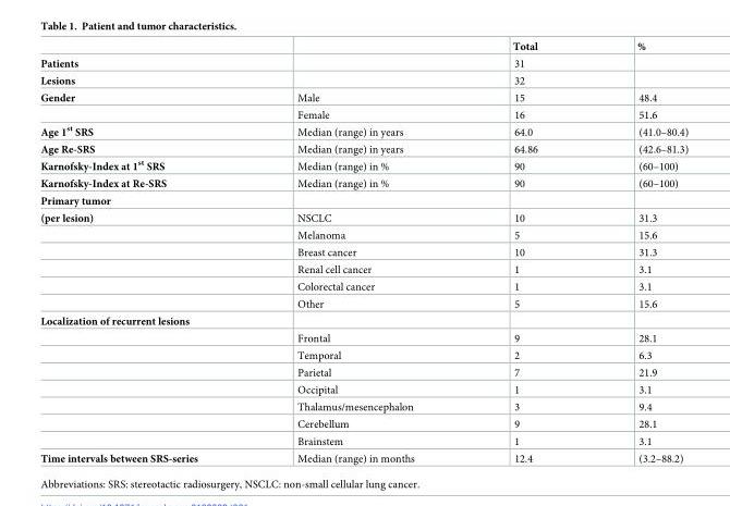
<table><thead><tr><td></td><td></td><td>Total</td><td>%</td></tr></thead><tbody><tr><td>Patients</td><td></td><td>31</td><td></td></tr><tr><td>Lesions</td><td></td><td>32</td><td></td></tr><tr><td rowspan="2">Gender</td><td>Male</td><td>15</td><td>48.4</td></tr><tr><td>Female</td><td>16</td><td>51.6</td></tr><tr><td>Age 1<sup>st</sup> SRS</td><td>Median (range) in years</td><td>64.0</td><td>(41.0–80.4)</td></tr><tr><td>Age Re-SRS</td><td>Median (range) in years</td><td>64.86</td><td>(42.6–81.3)</td></tr><tr><td>Karnofsky-Index at 1<sup>st</sup> SRS</td><td>Median (range) in %</td><td>90</td><td>(60–100)</td></tr><tr><td>Karnofsky-Index at Re-SRS</td><td>Median (range) in %</td><td>90</td><td>(60–100)</td></tr><tr><td colspan="4">Primary tumor</td></tr><tr><td rowspan="6">(per lesion)</td><td>NSCLC</td><td>10</td><td>31.3</td></tr><tr><td>Melanoma</td><td>5</td><td>15.6</td></tr><tr><td>Breast cancer</td><td>10</td><td>31.3</td></tr><tr><td>Renal cell cancer</td><td>1</td><td>3.1</td></tr><tr><td>Colorectal cancer</td><td>1</td><td>3.1</td></tr><tr><td>Other</td><td>5</td><td>15.6</td></tr><tr><td colspan="4">Localization of recurrent lesions</td></tr><tr><td></td><td>Frontal</td><td>9</td><td>28.1</td></tr><tr><td></td><td>Temporal</td><td>2</td><td>6.3</td></tr><tr><td></td><td>Parietal</td><td>7</td><td>21.9</td></tr><tr><td></td><td>Occipital</td><td>1</td><td>3.1</td></tr><tr><td></td><td>Thalamus/mesencephalon</td><td>3</td><td>9.4</td></tr><tr><td></td><td>Cerebellum</td><td>9</td><td>28.1</td></tr><tr><td></td><td>Brainstem</td><td>1</td><td>3.1</td></tr><tr><td>Time intervals between SRS-series</td><td>Median (range) in months</td><td>12.4</td><td>(3.2–88.2)</td></tr></tbody></table>